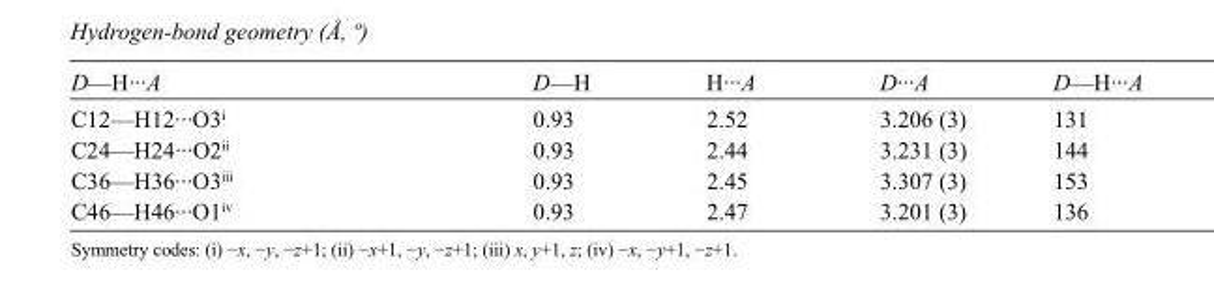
<table><tbody><tr><td>D—H···A</td><td>D—H</td><td>H···A</td><td>D···A</td><td>D—H···A</td></tr><tr><td>C12—H12···O3<sup>i</sup></td><td>0.93</td><td>2.52</td><td>3.206 (3)</td><td>131</td></tr><tr><td>C24—H24···O2<sup>ii</sup></td><td>0.93</td><td>2.44</td><td>3.231 (3)</td><td>144</td></tr><tr><td>C36—H36···O3<sup>iii</sup></td><td>0.93</td><td>2.45</td><td>3.307 (3)</td><td>153</td></tr><tr><td>C46—H46···O1<sup>iv</sup></td><td>0.93</td><td>2.47</td><td>3.201 (3)</td><td>136</td></tr></tbody></table>